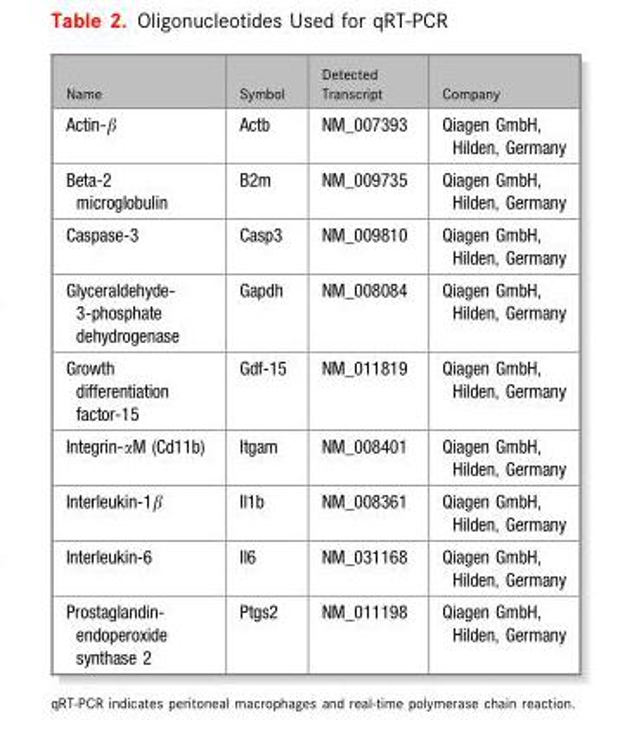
<table><thead><tr><td>Name</td><td>Symbol</td><td>Detected Transcript</td><td>Company</td></tr></thead><tbody><tr><td>Actin-β</td><td>Actb</td><td>NM_007393</td><td>Qiagen GmbH, Hilden, Germany</td></tr><tr><td>Beta-2 microglobulin</td><td>B2m</td><td>NM_009735</td><td>Qiagen GmbH, Hilden, Germany</td></tr><tr><td>Caspase-3</td><td>Casp3</td><td>NM_009810</td><td>Qiagen GmbH, Hilden, Germany</td></tr><tr><td>Glyceraldehyde- 3-phosphate dehydrogenase</td><td>Gapdh</td><td>NM_008084</td><td>Qiagen GmbH, Hilden, Germany</td></tr><tr><td>Growth differentiation factor-15</td><td>Gdf-15</td><td>NM_011819</td><td>Qiagen GmbH, Hilden, Germany</td></tr><tr><td>Integrin-αM (Cd11b)</td><td>Itgam</td><td>NM_008401</td><td>Qiagen GmbH, Hilden, Germany</td></tr><tr><td>Interleukin-1β</td><td>Il1b</td><td>NM_008361</td><td>Qiagen GmbH, Hilden, Germany</td></tr><tr><td>Interleukin-6</td><td>Il6</td><td>NM_031168</td><td>Qiagen GmbH, Hilden, Germany</td></tr><tr><td>Prostaglandin- endoperoxide synthase 2</td><td>Ptgs2</td><td>NM_011198</td><td>Qiagen GmbH, Hilden, Germany</td></tr></tbody></table>